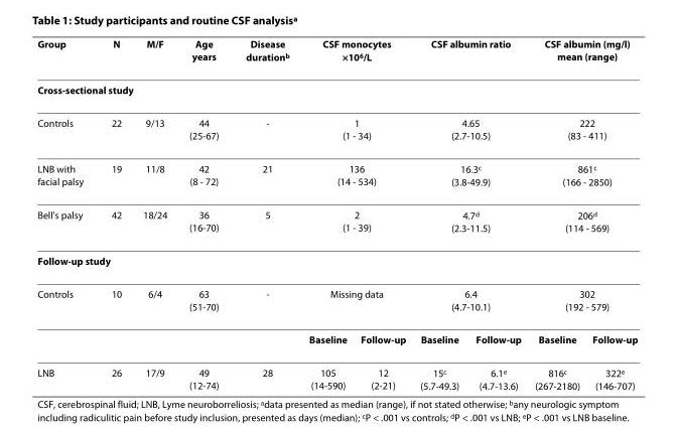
<table><thead><tr><td>Group</td><td>N</td><td>M/F</td><td>Age years</td><td>Disease duration<sup>b</sup></td><td colspan="2">CSF monocytes ×10<sup>6</sup>/L</td><td colspan="2">CSF albumin ratio</td><td colspan="2">CSF albumin (mg/l) mean (range)</td></tr></thead><tbody><tr><td colspan="11">Cross-sectional study</td></tr><tr><td>Controls</td><td>22</td><td>9/13</td><td>44 (25-67)</td><td>-</td><td colspan="2">1 (1 - 34)</td><td colspan="2">4.65 (2.7-10.5)</td><td colspan="2">222 (83 - 411)</td></tr><tr><td>LNB with facial palsy</td><td>19</td><td>11/8</td><td>42 (8 - 72)</td><td>21</td><td colspan="2">136 (14 - 534)</td><td colspan="2">16.3<sup>c</sup> (3.8-49.9)</td><td colspan="2">861<sup>c</sup> (166 - 2850)</td></tr><tr><td>Bell&#x27;s palsy</td><td>42</td><td>18/24</td><td>36 (16-70)</td><td>5</td><td colspan="2">2 (1 - 39)</td><td colspan="2">4.7<sup>d</sup> (2.3-11.5)</td><td colspan="2">206<sup>d</sup> (114 - 569)</td></tr><tr><td colspan="11">Follow-up study</td></tr><tr><td rowspan="2">Controls</td><td>10</td><td>6/4</td><td>63 (51-70)</td><td>-</td><td colspan="2">Missing data</td><td colspan="2">6.4 (4.7-10.1)</td><td colspan="2">302 (192 - 579)</td></tr><tr><td></td><td></td><td></td><td></td><td>Baseline</td><td>Follow-up</td><td>Baseline</td><td>Follow-up</td><td>Baseline</td><td>Follow-up</td></tr><tr><td>LNB</td><td>26</td><td>17/9</td><td>49 (12-74)</td><td>28</td><td>105 (14-590)</td><td>12 (2-21)</td><td>15<sup>c</sup> (5.7-49.3)</td><td>6.1<sup>e</sup> (4.7-13.6)</td><td>816<sup>c</sup> (267-2180)</td><td>322<sup>e</sup> (146-707)</td></tr></tbody></table>